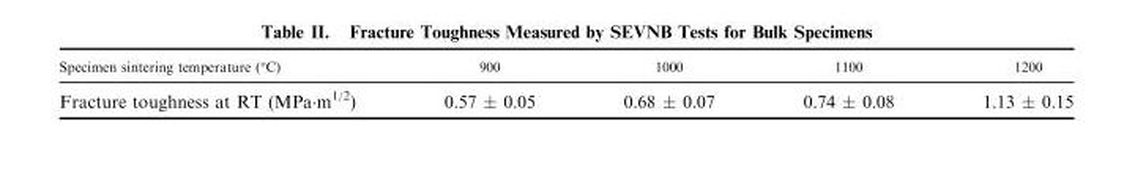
<table><thead><tr><td>Specimen sintering temperature (°C)</td><td>900</td><td>1000</td><td>1100</td><td>1200</td></tr></thead><tbody><tr><td>Fracture toughness at RT (MPa·m<sup>1/2</sup>)</td><td>0.57 ± 0.05</td><td>0.68 ± 0.07</td><td>0.74 ± 0.08</td><td>1.13 ± 0.15</td></tr></tbody></table>